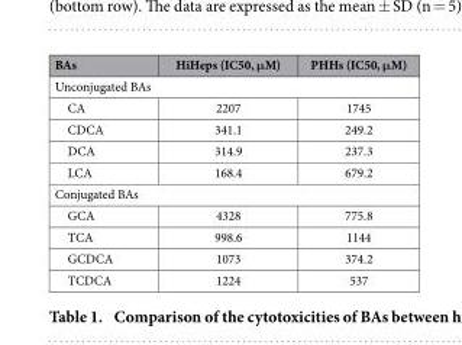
<table><thead><tr><td>BAs</td><td>HiHeps (IC50, μM)</td><td>PHHs (IC50, μM)</td></tr></thead><tbody><tr><td colspan="3">Unconjugated BAs</td></tr><tr><td>CA</td><td>2207</td><td>1745</td></tr><tr><td>CDCA</td><td>341.1</td><td>249.2</td></tr><tr><td>DCA</td><td>314.9</td><td>237.3</td></tr><tr><td>LCA</td><td>168.4</td><td>679.2</td></tr><tr><td colspan="3">Conjugated BAs</td></tr><tr><td>GCA</td><td>4328</td><td>775.8</td></tr><tr><td>TCA</td><td>998.6</td><td>1144</td></tr><tr><td>GCDCA</td><td>1073</td><td>374.2</td></tr><tr><td>TCDCA</td><td>1224</td><td>537</td></tr></tbody></table>